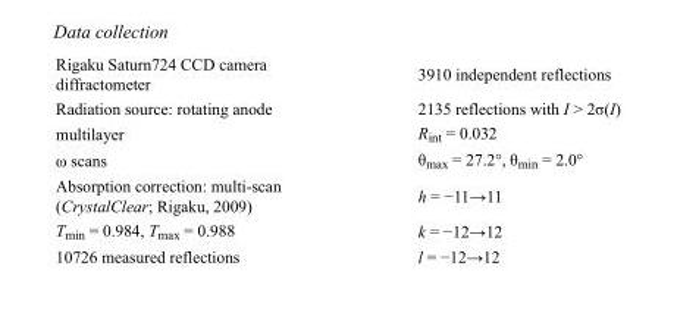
<table><tbody><tr><td>Rigaku Saturn724 CCD camera diffractometer</td><td>3910 independent reflections</td></tr><tr><td>Radiation source: rotating anode</td><td>2135 reflections with I &gt; 2σ(I)</td></tr><tr><td>multilayer</td><td>R<sub>int</sub> = 0.032</td></tr><tr><td>ω scans</td><td>θ<sub>max</sub> = 27.2°, θ<sub>min</sub> = 2.0°</td></tr><tr><td>Absorption correction: multi-scan (CrystalClear; Rigaku, 2009)</td><td>h = −11→11</td></tr><tr><td>T<sub>min</sub> = 0.984, T<sub>max</sub> = 0.988</td><td>k = −12→12</td></tr><tr><td>10726 measured reflections</td><td>l = −12→12</td></tr></tbody></table>